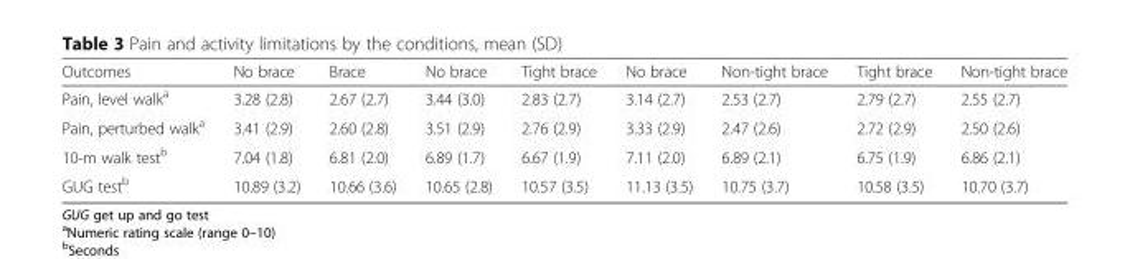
<table><thead><tr><td>Outcomes</td><td>No brace</td><td>Brace</td><td>No brace</td><td>Tight brace</td><td>No brace</td><td>Non-tight brace</td><td>Tight brace</td><td>Non-tight brace</td></tr></thead><tbody><tr><td>Pain, level walk<sup>a</sup></td><td>3.28 (2.8)</td><td>2.67 (2.7)</td><td>3.44 (3.0)</td><td>2.83 (2.7)</td><td>3.14 (2.7)</td><td>2.53 (2.7)</td><td>2.79 (2.7)</td><td>2.55 (2.7)</td></tr><tr><td>Pain, perturbed walk<sup>a</sup></td><td>3.41 (2.9)</td><td>2.60 (2.8)</td><td>3.51 (2.9)</td><td>2.76 (2.9)</td><td>3.33 (2.9)</td><td>2.47 (2.6)</td><td>2.72 (2.9)</td><td>2.50 (2.6)</td></tr><tr><td>10-m walk test<sup>b</sup></td><td>7.04 (1.8)</td><td>6.81 (2.0)</td><td>6.89 (1.7)</td><td>6.67 (1.9)</td><td>7.11 (2.0)</td><td>6.89 (2.1)</td><td>6.75 (1.9)</td><td>6.86 (2.1)</td></tr><tr><td>GUG test<sup>b</sup></td><td>10.89 (3.2)</td><td>10.66 (3.6)</td><td>10.65 (2.8)</td><td>10.57 (3.5)</td><td>11.13 (3.5)</td><td>10.75 (3.7)</td><td>10.58 (3.5)</td><td>10.70 (3.7)</td></tr></tbody></table>